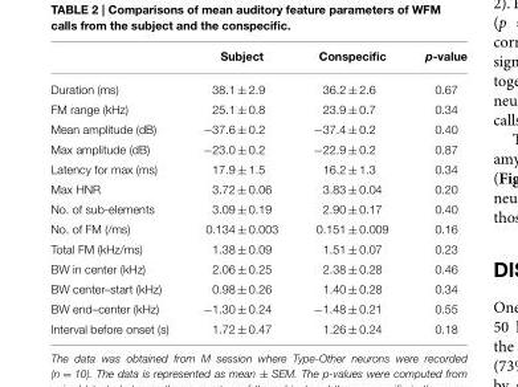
<table><thead><tr><td></td><td>Subject</td><td>Conspecific</td><td>p-value</td></tr></thead><tbody><tr><td>Duration (ms)</td><td>38.1 ± 2.9</td><td>36.2 ± 2.6</td><td>0.67</td></tr><tr><td>FM range (kHz)</td><td>25.1 ± 0.8</td><td>23.9 ± 0.7</td><td>0.34</td></tr><tr><td>Mean amplitude (dB)</td><td>−37.6 ± 0.2</td><td>−37.4 ± 0.2</td><td>0.40</td></tr><tr><td>Max amplitude (dB)</td><td>−23.0 ± 0.2</td><td>−22.9 ± 0.2</td><td>0.87</td></tr><tr><td>Latency for max (ms)</td><td>17.9 ± 1.5</td><td>16.2 ± 1.3</td><td>0.34</td></tr><tr><td>Max HNR</td><td>3.72 ± 0.06</td><td>3.83 ± 0.04</td><td>0.20</td></tr><tr><td>No. of sub-elements</td><td>3.09 ± 0.19</td><td>2.90 ± 0.17</td><td>0.40</td></tr><tr><td>No. of FM (/ms)</td><td>0.134 ± 0.003</td><td>0.151 ± 0.009</td><td>0.16</td></tr><tr><td>Total FM (kHz/ms)</td><td>1.38 ± 0.09</td><td>1.51 ± 0.07</td><td>0.23</td></tr><tr><td>BW in center (kHz)</td><td>2.06 ± 0.25</td><td>2.38 ± 0.28</td><td>0.46</td></tr><tr><td>BW center–start (kHz)</td><td>0.98 ± 0.26</td><td>1.40 ± 0.28</td><td>0.34</td></tr><tr><td>BW end–center (kHz)</td><td>−1.30 ± 0.24</td><td>−1.48 ± 0.21</td><td>0.55</td></tr><tr><td>Interval before onset (s)</td><td>1.72 ± 0.47</td><td>1.26 ± 0.24</td><td>0.18</td></tr></tbody></table>